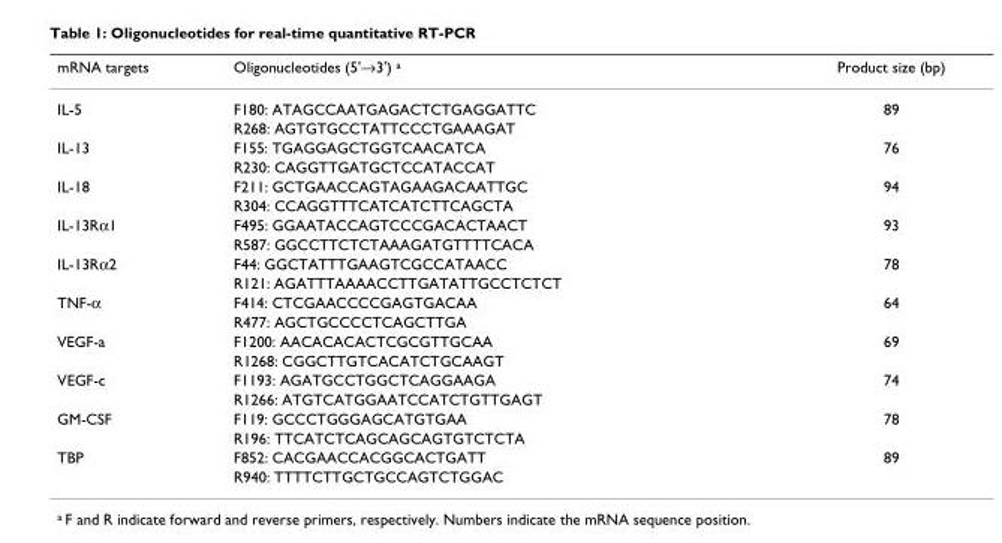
<table><thead><tr><td>mRNA targets</td><td>Oligonucleotides (5&#x27;→3&#x27;) <sup>a</sup></td><td>Product size (bp)</td></tr></thead><tbody><tr><td rowspan="2">IL-5</td><td>F180: ATAGCCAATGAGACTCTGAGGATTC</td><td>89</td></tr><tr><td>R268: AGTGTGCCTATTCCCTGAAAGAT</td><td></td></tr><tr><td rowspan="2">IL-13</td><td>F155: TGAGGAGCTGGTCAACATCA</td><td>76</td></tr><tr><td>R230: CAGGTTGATGCTCCATACCAT</td><td></td></tr><tr><td rowspan="2">IL-18</td><td>F211: GCTGAACCAGTAGAAGACAATTGC</td><td>94</td></tr><tr><td>R304: CCAGGTTTCATCATCTTCAGCTA</td><td></td></tr><tr><td rowspan="2">IL-13Rα1</td><td>F495: GGAATACCAGTCCCGACACTAACT</td><td>93</td></tr><tr><td>R587: GGCCTTCTCTAAAGATGTTTTCACA</td><td></td></tr><tr><td rowspan="2">IL-13Rα2</td><td>F44: GGCTATTTGAAGTCGCCATAACC</td><td>78</td></tr><tr><td>R121: AGATTTAAAACCTTGATATTGCCTCTCT</td><td></td></tr><tr><td rowspan="2">TNF-α</td><td>F414: CTCGAACCCCGAGTGACAA</td><td>64</td></tr><tr><td>R477: AGCTGCCCCTCAGCTTGA</td><td></td></tr><tr><td rowspan="2">VEGF-a</td><td>F1200: AACACACACTCGCGTTGCAA</td><td>69</td></tr><tr><td>R1268: CGGCTTGTCACATCTGCAAGT</td><td></td></tr><tr><td rowspan="2">VEGF-c</td><td>F1193: AGATGCCTGGCTCAGGAAGA</td><td>74</td></tr><tr><td>R1266: ATGTCATGGAATCCATCTGTTGAGT</td><td></td></tr><tr><td rowspan="2">GM-CSF</td><td>F119: GCCCTGGGAGCATGTGAA</td><td>78</td></tr><tr><td>R196: TTCATCTCAGCAGCAGTGTCTCTA</td><td></td></tr><tr><td rowspan="2">TBP</td><td>F852: CACGAACCACGGCACTGATT</td><td>89</td></tr><tr><td>R940: TTTTCTTGCTGCCAGTCTGGAC</td><td></td></tr></tbody></table>